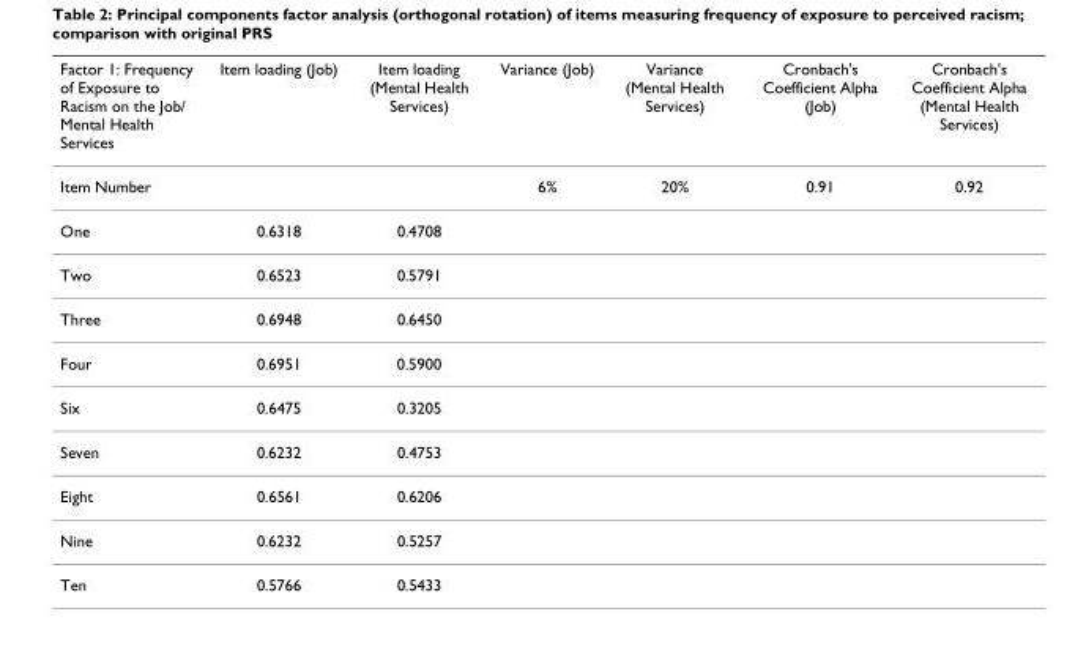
<table><thead><tr><td>Factor 1: Frequency of Exposure to Racism on the Job/ Mental Health Services</td><td>Item loading (Job)</td><td>Item loading (Mental Health Services)</td><td>Variance (Job)</td><td>Variance (Mental Health Services)</td><td>Cronbach&#x27;s Coefficient Alpha (Job)</td><td>Cronbach&#x27;s Coefficient Alpha (Mental Health Services)</td></tr></thead><tbody><tr><td>Item Number</td><td></td><td></td><td>6%</td><td>20%</td><td>0.91</td><td>0.92</td></tr><tr><td>One</td><td>0.6318</td><td>0.4708</td><td></td><td></td><td></td><td></td></tr><tr><td>Two</td><td>0.6523</td><td>0.5791</td><td></td><td></td><td></td><td></td></tr><tr><td>Three</td><td>0.6948</td><td>0.6450</td><td></td><td></td><td></td><td></td></tr><tr><td>Four</td><td>0.6951</td><td>0.5900</td><td></td><td></td><td></td><td></td></tr><tr><td>Six</td><td>0.6475</td><td>0.3205</td><td></td><td></td><td></td><td></td></tr><tr><td>Seven</td><td>0.6232</td><td>0.4753</td><td></td><td></td><td></td><td></td></tr><tr><td>Eight</td><td>0.6561</td><td>0.6206</td><td></td><td></td><td></td><td></td></tr><tr><td>Nine</td><td>0.6232</td><td>0.5257</td><td></td><td></td><td></td><td></td></tr><tr><td>Ten</td><td>0.5766</td><td>0.5433</td><td></td><td></td><td></td><td></td></tr></tbody></table>